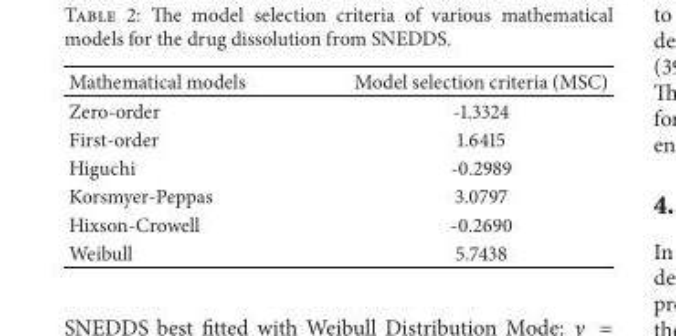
<table><thead><tr><td>Mathematical models</td><td>Model selection criteria (MSC)</td></tr></thead><tbody><tr><td>Zero-order</td><td>-1.3324</td></tr><tr><td>First-order</td><td>1.6415</td></tr><tr><td>Higuchi</td><td>-0.2989</td></tr><tr><td>Korsmyer-Peppas</td><td>3.0797</td></tr><tr><td>Hixson-Crowell</td><td>-0.2690</td></tr><tr><td>Weibull</td><td>5.7438</td></tr></tbody></table>